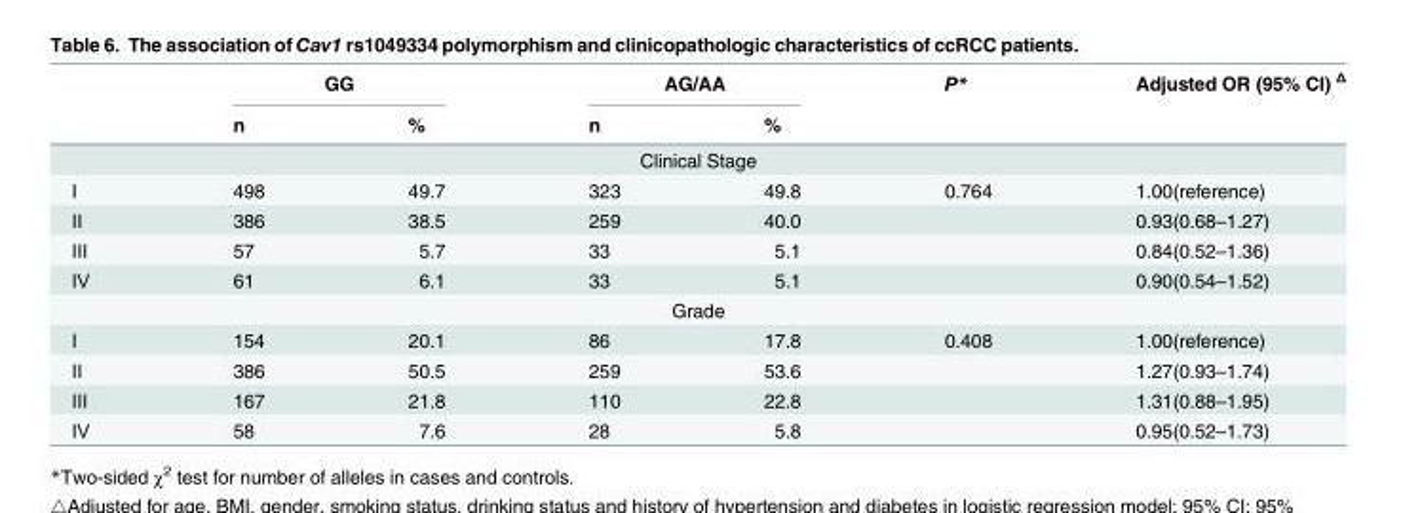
<table><thead><tr><td rowspan="2"></td><td colspan="2">GG</td><td colspan="2">AG/AA</td><td rowspan="2">P*</td><td rowspan="2">Adjusted OR (95% CI)</td></tr><tr><td>n</td><td>%</td><td>n</td><td>%</td></tr></thead><tbody><tr><td colspan="7">Clinical Stage</td></tr><tr><td>Ⅰ</td><td>498</td><td>49.7</td><td>323</td><td>49.8</td><td>0.764</td><td>1.00(reference)</td></tr><tr><td>Ⅱ</td><td>386</td><td>38.5</td><td>259</td><td>40.0</td><td></td><td>0.93(0.68–1.27)</td></tr><tr><td>Ⅲ</td><td>57</td><td>5.7</td><td>33</td><td>5.1</td><td></td><td>0.84(0.52–1.36)</td></tr><tr><td>Ⅳ</td><td>61</td><td>6.1</td><td>33</td><td>5.1</td><td></td><td>0.90(0.54–1.52)</td></tr><tr><td colspan="7">Grade</td></tr><tr><td>Ⅰ</td><td>154</td><td>20.1</td><td>86</td><td>17.8</td><td>0.408</td><td>1.00(reference)</td></tr><tr><td>Ⅱ</td><td>386</td><td>50.5</td><td>259</td><td>53.6</td><td></td><td>1.27(0.93–1.74)</td></tr><tr><td>Ⅲ</td><td>167</td><td>21.8</td><td>110</td><td>22.8</td><td></td><td>1.31(0.88–1.95)</td></tr><tr><td>Ⅳ</td><td>58</td><td>7.6</td><td>28</td><td>5.8</td><td></td><td>0.95(0.52–1.73)</td></tr></tbody></table>